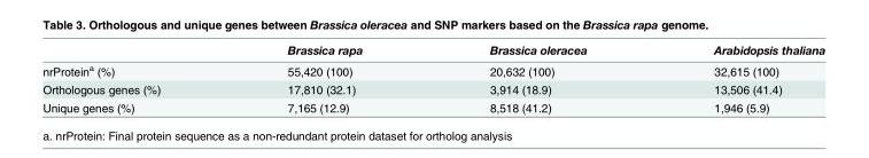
<table><thead><tr><td></td><td>Brassica rapa</td><td>Brassica oleracea</td><td>Arabidopsis thaliana</td></tr></thead><tbody><tr><td>nrProtein<sup>a</sup> (%)</td><td>55,420 (100)</td><td>20,632 (100)</td><td>32,615 (100)</td></tr><tr><td>Orthologous genes (%)</td><td>17,810 (32.1)</td><td>3,914 (18.9)</td><td>13,506 (41.4)</td></tr><tr><td>Unique genes (%)</td><td>7,165 (12.9)</td><td>8,518 (41.2)</td><td>1,946 (5.9)</td></tr></tbody></table>